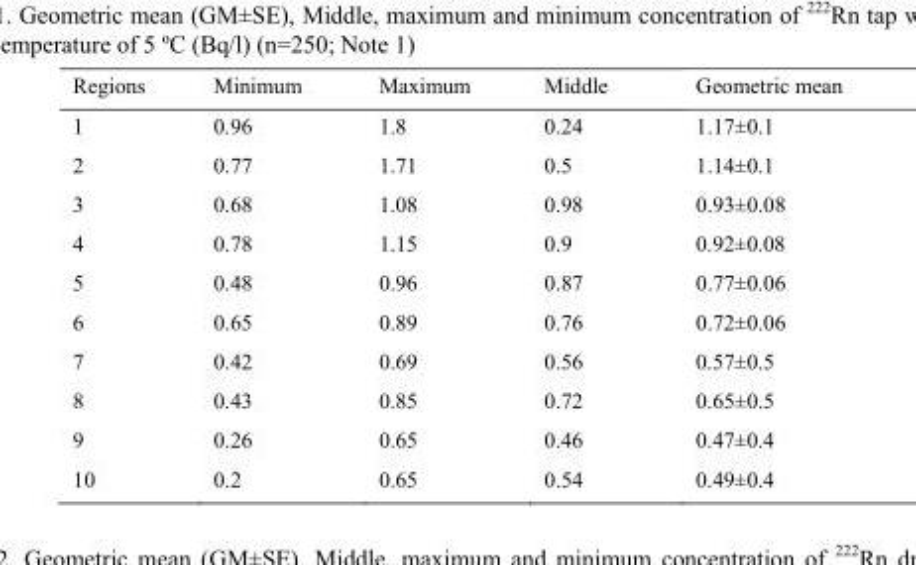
<table><thead><tr><td>Regions</td><td>Minimum</td><td>Maximum</td><td>Middle</td><td>Geometric mean</td></tr></thead><tbody><tr><td>1</td><td>0.96</td><td>1.8</td><td>0.24</td><td>1.17±0.1</td></tr><tr><td>2</td><td>0.77</td><td>1.71</td><td>0.5</td><td>1.14±0.1</td></tr><tr><td>3</td><td>0.68</td><td>1.08</td><td>0.98</td><td>0.93±0.08</td></tr><tr><td>4</td><td>0.78</td><td>1.15</td><td>0.9</td><td>0.92±0.08</td></tr><tr><td>5</td><td>0.48</td><td>0.96</td><td>0.87</td><td>0.77±0.06</td></tr><tr><td>6</td><td>0.65</td><td>0.89</td><td>0.76</td><td>0.72±0.06</td></tr><tr><td>7</td><td>0.42</td><td>0.69</td><td>0.56</td><td>0.57±0.5</td></tr><tr><td>8</td><td>0.43</td><td>0.85</td><td>0.72</td><td>0.65±0.5</td></tr><tr><td>9</td><td>0.26</td><td>0.65</td><td>0.46</td><td>0.47±0.4</td></tr><tr><td>10</td><td>0.2</td><td>0.65</td><td>0.54</td><td>0.49±0.4</td></tr></tbody></table>